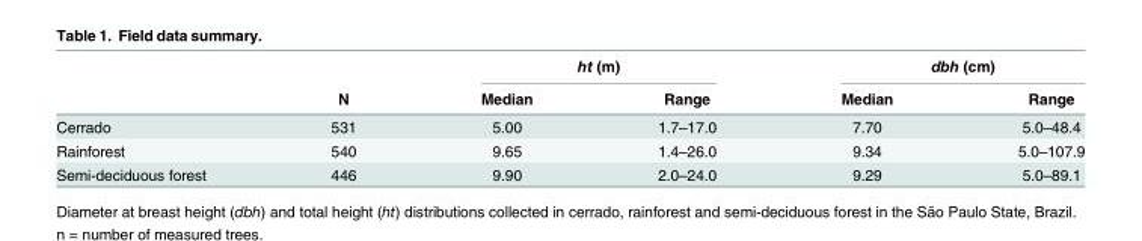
<table><thead><tr><td rowspan="2"></td><td rowspan="2">N</td><td colspan="2">ht (m)</td><td colspan="2">dbh (cm)</td></tr><tr><td>Median</td><td>Range</td><td>Median</td><td>Range</td></tr></thead><tbody><tr><td>Cerrado</td><td>531</td><td>5.00</td><td>1.7–17.0</td><td>7.70</td><td>5.0–48.4</td></tr><tr><td>Rainforest</td><td>540</td><td>9.65</td><td>1.4–26.0</td><td>9.34</td><td>5.0–107.9</td></tr><tr><td>Semi-deciduous forest</td><td>446</td><td>9.90</td><td>2.0–24.0</td><td>9.29</td><td>5.0–89.1</td></tr></tbody></table>